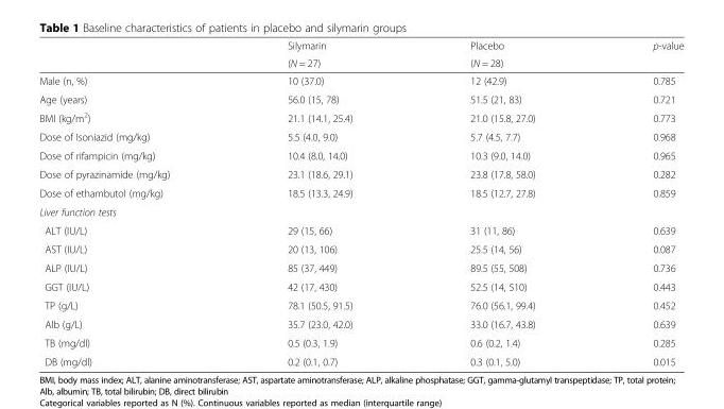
<table><thead><tr><td rowspan="2"></td><td rowspan="2">Silymarin (N = 27)</td><td rowspan="2">Placebo (N = 28)</td><td rowspan="2">p-value</td></tr><tr></tr></thead><tbody><tr><td>Male (n, %)</td><td>10 (37.0)</td><td>12 (42.9)</td><td>0.785</td></tr><tr><td>Age (years)</td><td>56.0 (15, 78)</td><td>51.5 (21, 83)</td><td>0.721</td></tr><tr><td>BMI (kg/m<sup>2</sup>)</td><td>21.1 (14.1, 25.4)</td><td>21.0 (15.8, 27.0)</td><td>0.773</td></tr><tr><td>Dose of Isoniazid (mg/kg)</td><td>5.5 (4.0, 9.0)</td><td>5.7 (4.5, 7.7)</td><td>0.968</td></tr><tr><td>Dose of rifampicin (mg/kg)</td><td>10.4 (8.0, 14.0)</td><td>10.3 (9.0, 14.0)</td><td>0.965</td></tr><tr><td>Dose of pyrazinamide (mg/kg)</td><td>23.1 (18.6, 29.1)</td><td>23.8 (17.8, 58.0)</td><td>0.282</td></tr><tr><td>Dose of ethambutol (mg/kg)</td><td>18.5 (13.3, 24.9)</td><td>18.5 (12.7, 27.8)</td><td>0.859</td></tr><tr><td colspan="4">Liver function tests</td></tr><tr><td>ALT (IU/L)</td><td>29 (15, 66)</td><td>31 (11, 86)</td><td>0.639</td></tr><tr><td>AST (IU/L)</td><td>20 (13, 106)</td><td>25.5 (14, 56)</td><td>0.087</td></tr><tr><td>ALP (IU/L)</td><td>85 (37, 449)</td><td>89.5 (55, 508)</td><td>0.736</td></tr><tr><td>GGT (IU/L)</td><td>42 (17, 430)</td><td>52.5 (14, 510)</td><td>0.443</td></tr><tr><td>TP (g/L)</td><td>78.1 (50.5, 91.5)</td><td>76.0 (56.1, 99.4)</td><td>0.452</td></tr><tr><td>Alb (g/L)</td><td>35.7 (23.0, 42.0)</td><td>33.0 (16.7, 43.8)</td><td>0.639</td></tr><tr><td>TB (mg/dl)</td><td>0.5 (0.3, 1.9)</td><td>0.6 (0.2, 1.4)</td><td>0.285</td></tr><tr><td>DB (mg/dl)</td><td>0.2 (0.1, 0.7)</td><td>0.3 (0.1, 5.0)</td><td>0.015</td></tr></tbody></table>